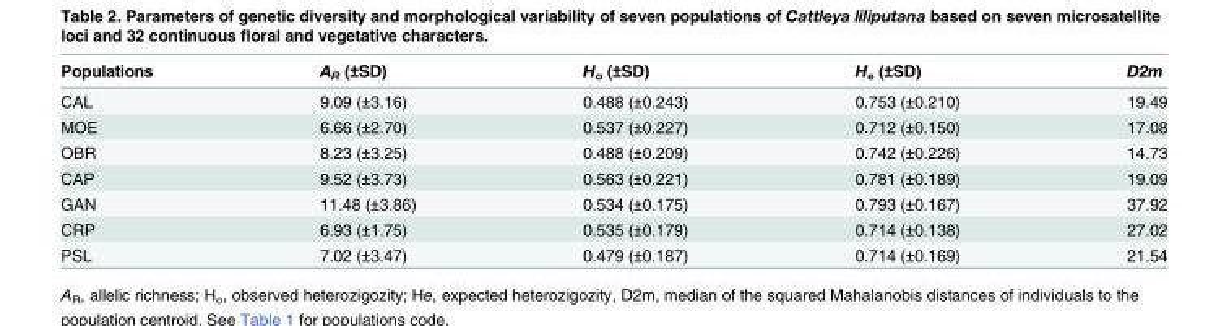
<table><thead><tr><td>Populations</td><td>A<sub>R</sub> (±SD)</td><td>H<sub>o</sub> (±SD)</td><td>H<sub>e</sub> (±SD)</td><td>D2m</td></tr></thead><tbody><tr><td>CAL</td><td>9.09 (±3.16)</td><td>0.488 (±0.243)</td><td>0.753 (±0.210)</td><td>19.49</td></tr><tr><td>MOE</td><td>6.66 (±2.70)</td><td>0.537 (±0.227)</td><td>0.712 (±0.150)</td><td>17.08</td></tr><tr><td>OBR</td><td>8.23 (±3.25)</td><td>0.488 (±0.209)</td><td>0.742 (±0.226)</td><td>14.73</td></tr><tr><td>CAP</td><td>9.52 (±3.73)</td><td>0.563 (±0.221)</td><td>0.781 (±0.189)</td><td>19.09</td></tr><tr><td>GAN</td><td>11.48 (±3.86)</td><td>0.534 (±0.175)</td><td>0.793 (±0.167)</td><td>37.92</td></tr><tr><td>CRP</td><td>6.93 (±1.75)</td><td>0.535 (±0.179)</td><td>0.714 (±0.138)</td><td>27.02</td></tr><tr><td>PSL</td><td>7.02 (±3.47)</td><td>0.479 (±0.187)</td><td>0.714 (±0.169)</td><td>21.54</td></tr></tbody></table>